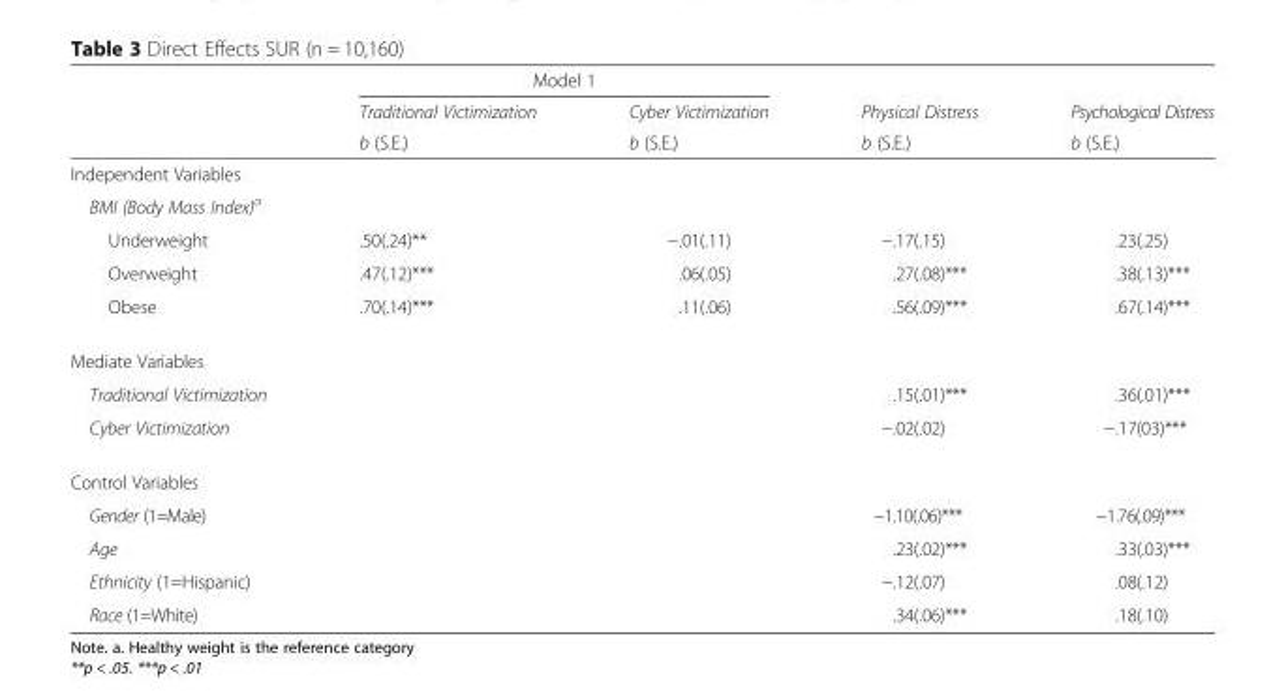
<table><thead><tr><td rowspan="3"></td><td colspan="2">Model 1</td><td rowspan="3">Physical Distress b (S.E.)</td><td rowspan="3">Psychological Distress b (S.E.)</td></tr><tr><td rowspan="2">Traditional Victimization b (S.E.)</td><td rowspan="2">Cyber Victimization b (S.E.)</td></tr><tr></tr></thead><tbody><tr><td colspan="5">Independent Variables</td></tr><tr><td colspan="5">BMI (Body Mass Index)<sup>a</sup></td></tr><tr><td>Underweight</td><td>.50(.24)**</td><td>−.01(.11)</td><td>−.17(.15)</td><td>.23(.25)</td></tr><tr><td>Overweight</td><td>.47(.12)***</td><td>.06(.05)</td><td>.27(.08)***</td><td>.38(.13)***</td></tr><tr><td>Obese</td><td>.70(.14)***</td><td>.11(.06)</td><td>.56(.09)***</td><td>.67(.14)***</td></tr><tr><td colspan="5">Mediate Variables</td></tr><tr><td>Traditional Victimization</td><td rowspan="2"></td><td rowspan="2"></td><td>.15(.01)***</td><td>.36(.01)***</td></tr><tr><td>Cyber Victimization</td><td>−.02(.02)</td><td>−.17(03)***</td></tr><tr><td colspan="5">Control Variables</td></tr><tr><td>Gender (1=Male)</td><td rowspan="4"></td><td rowspan="4"></td><td>−1.10(.06)***</td><td>−1.76(.09)***</td></tr><tr><td>Age</td><td>.23(.02)***</td><td>.33(.03)***</td></tr><tr><td>Ethnicity (1=Hispanic)</td><td>−.12(.07)</td><td>.08(.12)</td></tr><tr><td>Race (1=White)</td><td>.34(.06)***</td><td>.18(.10)</td></tr></tbody></table>